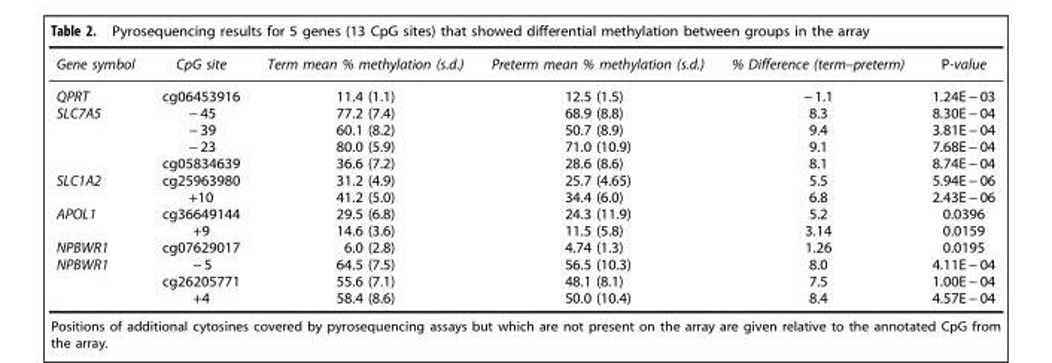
<table><thead><tr><td>Gene symbol</td><td>CpG site</td><td>Term mean % methylation (s.d.)</td><td>Preterm mean % methylation (s.d.)</td><td>% Difference (term–preterm)</td><td>P-value</td></tr></thead><tbody><tr><td>QPRT</td><td>cg06453916</td><td>11.4 (1.1)</td><td>12.5 (1.5)</td><td>− 1.1</td><td>1.24E − 03</td></tr><tr><td rowspan="4">SLC7A5</td><td>− 45</td><td>77.2 (7.4)</td><td>68.9 (8.8)</td><td>8.3</td><td>8.30E − 04</td></tr><tr><td>− 39</td><td>60.1 (8.2)</td><td>50.7 (8.9)</td><td>9.4</td><td>3.81E − 04</td></tr><tr><td>− 23</td><td>80.0 (5.9)</td><td>71.0 (10.9)</td><td>9.1</td><td>7.68E − 04</td></tr><tr><td>cg05834639</td><td>36.6 (7.2)</td><td>28.6 (8.6)</td><td>8.1</td><td>8.74E − 04</td></tr><tr><td rowspan="2">SLC1A2</td><td>cg25963980</td><td>31.2 (4.9)</td><td>25.7 (4.65)</td><td>5.5</td><td>5.94E − 06</td></tr><tr><td>+10</td><td>41.2 (5.0)</td><td>34.4 (6.0)</td><td>6.8</td><td>2.43E − 06</td></tr><tr><td rowspan="2">APOL1</td><td>cg36649144</td><td>29.5 (6.8)</td><td>24.3 (11.9)</td><td>5.2</td><td>0.0396</td></tr><tr><td>+9</td><td>14.6 (3.6)</td><td>11.5 (5.8)</td><td>3.14</td><td>0.0159</td></tr><tr><td>NPBWR1</td><td>cg07629017</td><td>6.0 (2.8)</td><td>4.74 (1.3)</td><td>1.26</td><td>0.0195</td></tr><tr><td rowspan="3">NPBWR1</td><td>− 5</td><td>64.5 (7.5)</td><td>56.5 (10.3)</td><td>8.0</td><td>4.11E − 04</td></tr><tr><td>cg26205771</td><td>55.6 (7.1)</td><td>48.1 (8.1)</td><td>7.5</td><td>1.00E − 04</td></tr><tr><td>+4</td><td>58.4 (8.6)</td><td>50.0 (10.4)</td><td>8.4</td><td>4.57E − 04</td></tr></tbody></table>